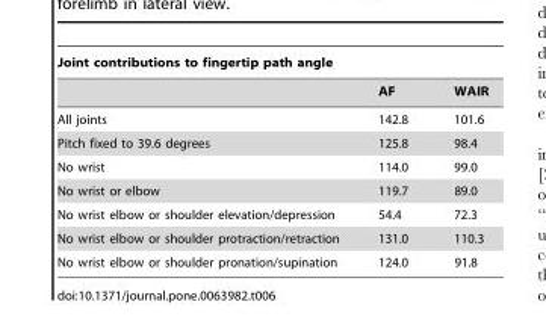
<table><thead><tr><td colspan="3">Joint contributions to fingertip path angle</td></tr><tr><td></td><td>AF</td><td>WAIR</td></tr></thead><tbody><tr><td>All joints</td><td>142.8</td><td>101.6</td></tr><tr><td>Pitch fixed to 39.6 degrees</td><td>125.8</td><td>98.4</td></tr><tr><td>No wrist</td><td>114.0</td><td>99.0</td></tr><tr><td>No wrist or elbow</td><td>119.7</td><td>89.0</td></tr><tr><td>No wrist elbow or shoulder elevation/depression</td><td>54.4</td><td>72.3</td></tr><tr><td>No wrist elbow or shoulder protraction/retraction</td><td>131.0</td><td>110.3</td></tr><tr><td>No wrist elbow or shoulder pronation/supination</td><td>124.0</td><td>91.8</td></tr></tbody></table>